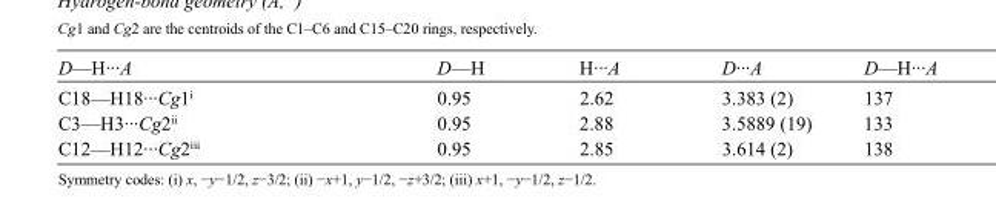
<table><tbody><tr><td>D—H···A</td><td>D—H</td><td>H···A</td><td>D···A</td><td>D—H···A</td></tr><tr><td>C18—H18···Cg1<sup>i</sup></td><td>0.95</td><td>2.62</td><td>3.383 (2)</td><td>137</td></tr><tr><td>C3—H3···Cg2<sup>ii</sup></td><td>0.95</td><td>2.88</td><td>3.5889 (19)</td><td>133</td></tr><tr><td>C12—H12···Cg2<sup>iii</sup></td><td>0.95</td><td>2.85</td><td>3.614 (2)</td><td>138</td></tr></tbody></table>